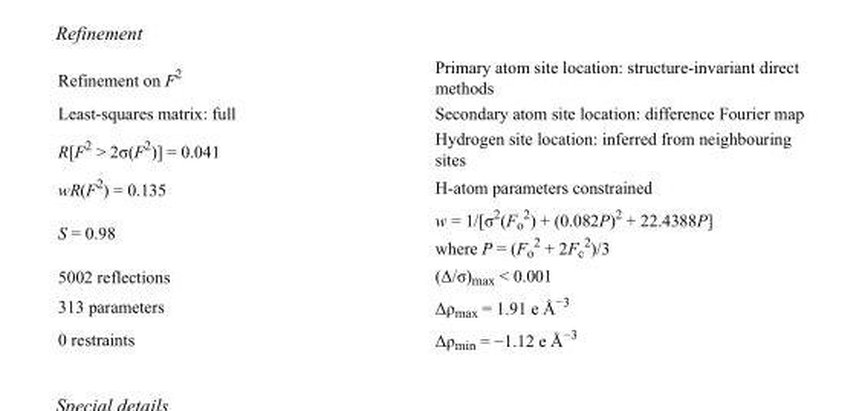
<table><tbody><tr><td>Refinement on F<sup>2</sup></td><td>Primary atom site location: structure-invariant direct methods</td></tr><tr><td>Least-squares matrix: full</td><td>Secondary atom site location: difference Fourier map</td></tr><tr><td>R[F<sup>2</sup> &gt; 2σ(F<sup>2</sup>)] = 0.041</td><td>Hydrogen site location: inferred from neighbouring sites</td></tr><tr><td>wR(F<sup>2</sup>) = 0.135</td><td>H-atom parameters constrained</td></tr><tr><td>S = 0.98</td><td>w = 1/[σ<sup>2</sup>(F<sub>o</sub> <sup>2</sup>) + (0.082P)<sup>2</sup> + 22.4388P] where P = (F<sub>o</sub> <sup>2</sup> + 2F<sub>c</sub> <sup>2</sup>)/3</td></tr><tr><td>5002 reflections</td><td>(Δ/σ)<sub>max</sub> &lt; 0.001</td></tr><tr><td>313 parameters</td><td>Δρ<sub>max</sub> = 1.91 e Å<sup>−3</sup></td></tr><tr><td>0 restraints</td><td>Δρ<sub>min</sub> = −1.12 e Å<sup>−3</sup></td></tr></tbody></table>